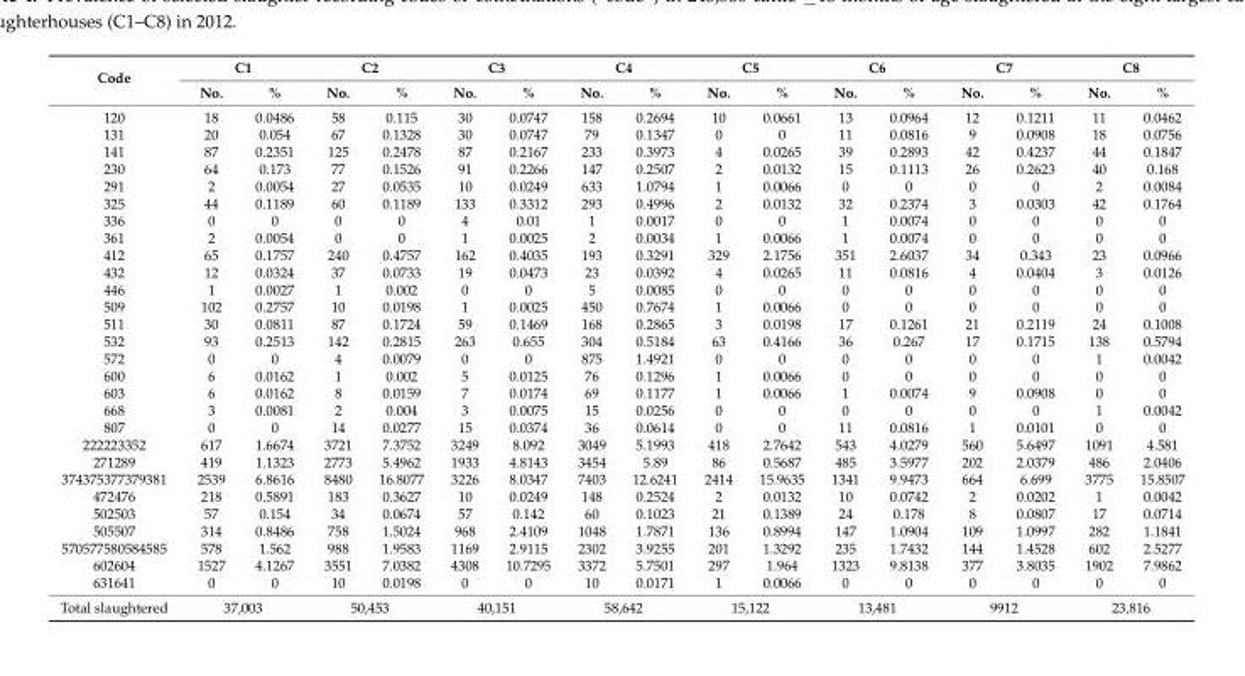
<table><thead><tr><td rowspan="2">Code</td><td colspan="2">C1</td><td colspan="2">C2</td><td colspan="2">C3</td><td colspan="2">C4</td><td colspan="2">C5</td><td colspan="2">C6</td><td colspan="2">C7</td><td colspan="2">C8</td></tr><tr><td>No.</td><td>%</td><td>No.</td><td>%</td><td>No.</td><td>%</td><td>No.</td><td>%</td><td>No.</td><td>%</td><td>No.</td><td>%</td><td>No.</td><td>%</td><td>No.</td><td>%</td></tr></thead><tbody><tr><td>120</td><td>18</td><td>0.0486</td><td>58</td><td>0.115</td><td>30</td><td>0.0747</td><td>158</td><td>0.2694</td><td>10</td><td>0.0661</td><td>13</td><td>0.0964</td><td>12</td><td>0.1211</td><td>11</td><td>0.0462</td></tr><tr><td>131</td><td>20</td><td>0.054</td><td>67</td><td>0.1328</td><td>30</td><td>0.0747</td><td>79</td><td>0.1347</td><td>0</td><td>0</td><td>11</td><td>0.0816</td><td>9</td><td>0.0908</td><td>18</td><td>0.0756</td></tr><tr><td>141</td><td>87</td><td>0.2351</td><td>125</td><td>0.2478</td><td>87</td><td>0.2167</td><td>233</td><td>0.3973</td><td>4</td><td>0.0265</td><td>39</td><td>0.2893</td><td>42</td><td>0.4237</td><td>44</td><td>0.1847</td></tr><tr><td>230</td><td>64</td><td>0.173</td><td>77</td><td>0.1526</td><td>91</td><td>0.2266</td><td>147</td><td>0.2507</td><td>2</td><td>0.0132</td><td>15</td><td>0.1113</td><td>26</td><td>0.2623</td><td>40</td><td>0.168</td></tr><tr><td>291</td><td>2</td><td>0.0054</td><td>27</td><td>0.0535</td><td>10</td><td>0.0249</td><td>633</td><td>1.0794</td><td>1</td><td>0.0066</td><td>0</td><td>0</td><td>0</td><td>0</td><td>2</td><td>0.0084</td></tr><tr><td>325</td><td>44</td><td>0.1189</td><td>60</td><td>0.1189</td><td>133</td><td>0.3312</td><td>293</td><td>0.4996</td><td>2</td><td>0.0132</td><td>32</td><td>0.2374</td><td>3</td><td>0.0303</td><td>42</td><td>0.1764</td></tr><tr><td>336</td><td>0</td><td>0</td><td>0</td><td>0</td><td>4</td><td>0.01</td><td>1</td><td>0.0017</td><td>0</td><td>0</td><td>1</td><td>0.0074</td><td>0</td><td>0</td><td>0</td><td>0</td></tr><tr><td>361</td><td>2</td><td>0.0054</td><td>0</td><td>0</td><td>1</td><td>0.0025</td><td>2</td><td>0.0034</td><td>1</td><td>0.0066</td><td>1</td><td>0.0074</td><td>0</td><td>0</td><td>0</td><td>0</td></tr><tr><td>412</td><td>65</td><td>0.1757</td><td>240</td><td>0.4757</td><td>162</td><td>0.4035</td><td>193</td><td>0.3291</td><td>329</td><td>2.1756</td><td>351</td><td>2.6037</td><td>34</td><td>0.343</td><td>23</td><td>0.0966</td></tr><tr><td>432</td><td>12</td><td>0.0324</td><td>37</td><td>0.0733</td><td>19</td><td>0.0473</td><td>23</td><td>0.0392</td><td>4</td><td>0.0265</td><td>11</td><td>0.0816</td><td>4</td><td>0.0404</td><td>3</td><td>0.0126</td></tr><tr><td>446</td><td>1</td><td>0.0027</td><td>1</td><td>0.002</td><td>0</td><td>0</td><td>5</td><td>0.0085</td><td>0</td><td>0</td><td>0</td><td>0</td><td>0</td><td>0</td><td>0</td><td>0</td></tr><tr><td>509</td><td>102</td><td>0.2757</td><td>10</td><td>0.0198</td><td>1</td><td>0.0025</td><td>450</td><td>0.7674</td><td>1</td><td>0.0066</td><td>0</td><td>0</td><td>0</td><td>0</td><td>0</td><td>0</td></tr><tr><td>511</td><td>30</td><td>0.0811</td><td>87</td><td>0.1724</td><td>59</td><td>0.1469</td><td>168</td><td>0.2865</td><td>3</td><td>0.0198</td><td>17</td><td>0.1261</td><td>21</td><td>0.2119</td><td>24</td><td>0.1008</td></tr><tr><td>532</td><td>93</td><td>0.2513</td><td>142</td><td>0.2815</td><td>263</td><td>0.655</td><td>304</td><td>0.5184</td><td>63</td><td>0.4166</td><td>36</td><td>0.267</td><td>17</td><td>0.1715</td><td>138</td><td>0.5794</td></tr><tr><td>572</td><td>0</td><td>0</td><td>4</td><td>0.0079</td><td>0</td><td>0</td><td>875</td><td>1.4921</td><td>0</td><td>0</td><td>0</td><td>0</td><td>0</td><td>0</td><td>1</td><td>0.0042</td></tr><tr><td>600</td><td>6</td><td>0.0162</td><td>1</td><td>0.002</td><td>5</td><td>0.0125</td><td>76</td><td>0.1296</td><td>1</td><td>0.0066</td><td>0</td><td>0</td><td>0</td><td>0</td><td>0</td><td>0</td></tr><tr><td>603</td><td>6</td><td>0.0162</td><td>8</td><td>0.0159</td><td>7</td><td>0.0174</td><td>69</td><td>0.1177</td><td>1</td><td>0.0066</td><td>1</td><td>0.0074</td><td>9</td><td>0.0908</td><td>0</td><td>0</td></tr><tr><td>668</td><td>3</td><td>0.0081</td><td>2</td><td>0.004</td><td>3</td><td>0.0075</td><td>15</td><td>0.0256</td><td>0</td><td>0</td><td>0</td><td>0</td><td>0</td><td>0</td><td>1</td><td>0.0042</td></tr><tr><td>807</td><td>0</td><td>0</td><td>14</td><td>0.0277</td><td>15</td><td>0.0374</td><td>36</td><td>0.0614</td><td>0</td><td>0</td><td>11</td><td>0.0816</td><td>1</td><td>0.0101</td><td>0</td><td>0</td></tr><tr><td>222223352</td><td>617</td><td>1.6674</td><td>3721</td><td>7.3752</td><td>3249</td><td>8.092</td><td>3049</td><td>5.1993</td><td>418</td><td>2.7642</td><td>543</td><td>4.0279</td><td>560</td><td>5.6497</td><td>1091</td><td>4.581</td></tr><tr><td>271289</td><td>419</td><td>1.1323</td><td>2773</td><td>5.4962</td><td>1933</td><td>4.8143</td><td>3454</td><td>5.89</td><td>86</td><td>0.5687</td><td>485</td><td>3.5977</td><td>202</td><td>2.0379</td><td>486</td><td>2.0406</td></tr><tr><td>374375377379381</td><td>2539</td><td>6.8616</td><td>8480</td><td>16.8077</td><td>3226</td><td>8.0347</td><td>7403</td><td>12.6241</td><td>2414</td><td>15.9635</td><td>1341</td><td>9.9473</td><td>664</td><td>6.699</td><td>3775</td><td>15.8507</td></tr><tr><td>472476</td><td>218</td><td>0.5891</td><td>183</td><td>0.3627</td><td>10</td><td>0.0249</td><td>148</td><td>0.2524</td><td>2</td><td>0.0132</td><td>10</td><td>0.0742</td><td>2</td><td>0.0202</td><td>1</td><td>0.0042</td></tr><tr><td>502503</td><td>57</td><td>0.154</td><td>34</td><td>0.0674</td><td>57</td><td>0.142</td><td>60</td><td>0.1023</td><td>21</td><td>0.1389</td><td>24</td><td>0.178</td><td>8</td><td>0.0807</td><td>17</td><td>0.0714</td></tr><tr><td>505507</td><td>314</td><td>0.8486</td><td>758</td><td>1.5024</td><td>968</td><td>2.4109</td><td>1048</td><td>1.7871</td><td>136</td><td>0.8994</td><td>147</td><td>1.0904</td><td>109</td><td>1.0997</td><td>282</td><td>1.1841</td></tr><tr><td>570577580584585</td><td>578</td><td>1.562</td><td>988</td><td>1.9583</td><td>1169</td><td>2.9115</td><td>2302</td><td>3.9255</td><td>201</td><td>1.3292</td><td>235</td><td>1.7432</td><td>144</td><td>1.4528</td><td>602</td><td>2.5277</td></tr><tr><td>602604</td><td>1527</td><td>4.1267</td><td>3551</td><td>7.0382</td><td>4308</td><td>10.7295</td><td>3372</td><td>5.7501</td><td>297</td><td>1.964</td><td>1323</td><td>9.8138</td><td>377</td><td>3.8035</td><td>1902</td><td>7.9862</td></tr><tr><td>631641</td><td>0</td><td>0</td><td>10</td><td>0.0198</td><td>0</td><td>0</td><td>10</td><td>0.0171</td><td>1</td><td>0.0066</td><td>0</td><td>0</td><td>0</td><td>0</td><td>0</td><td>0</td></tr><tr><td>Total slaughtered</td><td colspan="2">37,003</td><td colspan="2">50,453</td><td colspan="2">40,151</td><td colspan="2">58,642</td><td colspan="2">15,122</td><td colspan="2">13,481</td><td colspan="2">9912</td><td colspan="2">23,816</td></tr></tbody></table>